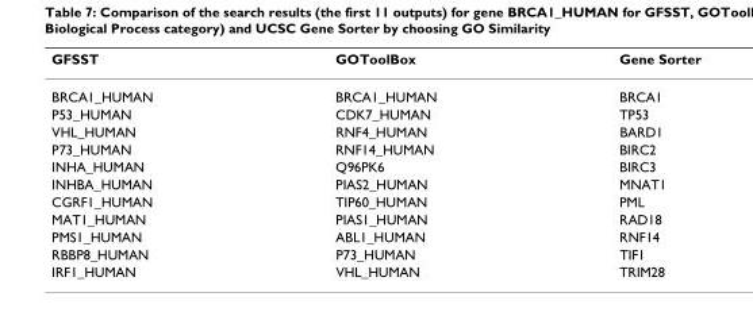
<table><thead><tr><td>GFSST</td><td>GOToolBox</td><td>Gene Sorter</td></tr></thead><tbody><tr><td>BRCA1_HUMAN</td><td>BRCA1_HUMAN</td><td>BRCA1</td></tr><tr><td>P53_HUMAN</td><td>CDK7_HUMAN</td><td>TP53</td></tr><tr><td>VHL_HUMAN</td><td>RNF4_HUMAN</td><td>BARD1</td></tr><tr><td>P73_HUMAN</td><td>RNF14_HUMAN</td><td>BIRC2</td></tr><tr><td>INHA_HUMAN</td><td>Q96PK6</td><td>BIRC3</td></tr><tr><td>INHBA_HUMAN</td><td>PIAS2_HUMAN</td><td>MNAT1</td></tr><tr><td>CGRF1_HUMAN</td><td>TIP60_HUMAN</td><td>PML</td></tr><tr><td>MAT1_HUMAN</td><td>PIAS1_HUMAN</td><td>RAD18</td></tr><tr><td>PMS1_HUMAN</td><td>ABL1_HUMAN</td><td>RNF14</td></tr><tr><td>RBBP8_HUMAN</td><td>P73_HUMAN</td><td>TIF1</td></tr><tr><td>IRF1_HUMAN</td><td>VHL_HUMAN</td><td>TRIM28</td></tr></tbody></table>